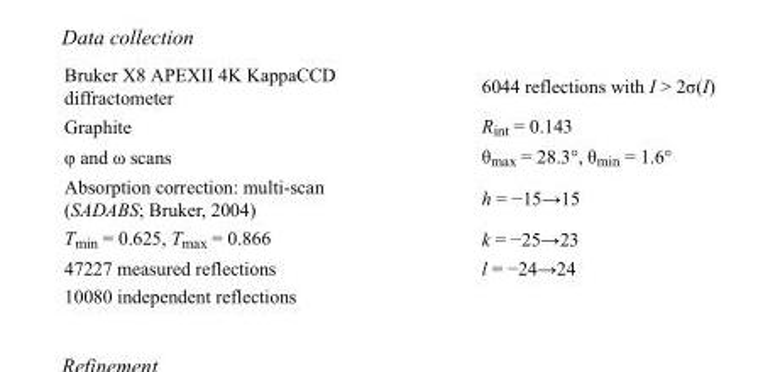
<table><tbody><tr><td>Bruker X8 APEXII 4K KappaCCD diffractometer</td><td>6044 reflections with I &gt; 2σ(I)</td></tr><tr><td>Graphite</td><td>R<sub>int</sub> = 0.143</td></tr><tr><td>φ and ω scans</td><td>θ<sub>max</sub> = 28.3°, θ<sub>min</sub> = 1.6°</td></tr><tr><td>Absorption correction: multi-scan (SADABS; Bruker, 2004)</td><td>h = −15→15</td></tr><tr><td>T<sub>min</sub> = 0.625, T<sub>max</sub> = 0.866</td><td>k = −25→23</td></tr><tr><td>47227 measured reflections</td><td>l = −24→24</td></tr><tr><td>10080 independent reflections</td><td></td></tr></tbody></table>